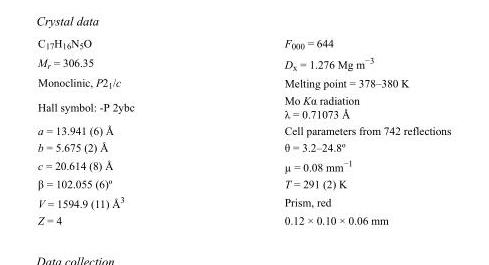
<table><tbody><tr><td>C<sub>17</sub>H<sub>16</sub>N<sub>5</sub>O</td><td>F<sub>000</sub> = 644</td></tr><tr><td>M<sub>r</sub> = 306.35</td><td>D<sub>x</sub> = 1.276 Mg m<sup>−3</sup></td></tr><tr><td>Monoclinic, P2<sub>1</sub>/c</td><td>Melting point = 378–380 K</td></tr><tr><td>Hall symbol: -P 2ybc</td><td>Mo Kα radiation λ = 0.71073 Å</td></tr><tr><td>a = 13.941 (6) Å</td><td>Cell parameters from 742 reflections</td></tr><tr><td>b = 5.675 (2) Å</td><td>θ = 3.2–24.8º</td></tr><tr><td>c = 20.614 (8) Å</td><td>µ = 0.08 mm<sup>−1</sup></td></tr><tr><td>β = 102.055 (6)º</td><td>T = 291 (2) K</td></tr><tr><td>V = 1594.9 (11) Å<sup>3</sup></td><td>Prism, red</td></tr><tr><td>Z = 4</td><td>0.12 × 0.10 × 0.06 mm</td></tr></tbody></table>